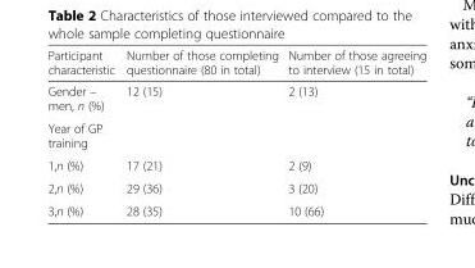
<table><thead><tr><td>Participant characteristic</td><td>Number of those completing questionnaire (80 in total)</td><td>Number of those agreeing to interview (15 in total)</td></tr></thead><tbody><tr><td>Gender – men, n (%)</td><td>12 (15)</td><td>2 (13)</td></tr><tr><td colspan="3">Year of GP training</td></tr><tr><td>1,n (%)</td><td>17 (21)</td><td>2 (9)</td></tr><tr><td>2,n (%)</td><td>29 (36)</td><td>3 (20)</td></tr><tr><td>3,n (%)</td><td>28 (35)</td><td>10 (66)</td></tr></tbody></table>